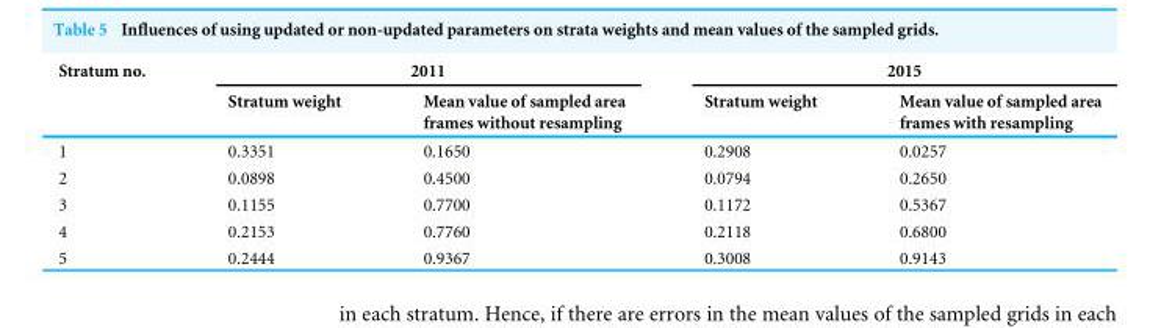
<table><thead><tr><td rowspan="2">Stratum no.</td><td colspan="2">2011</td><td colspan="2">2015</td></tr><tr><td>Stratum weight</td><td>Mean value of sampled area frames without resampling</td><td>Stratum weight</td><td>Mean value of sampled area frames with resampling</td></tr></thead><tbody><tr><td>1</td><td>0.3351</td><td>0.1650</td><td>0.2908</td><td>0.0257</td></tr><tr><td>2</td><td>0.0898</td><td>0.4500</td><td>0.0794</td><td>0.2650</td></tr><tr><td>3</td><td>0.1155</td><td>0.7700</td><td>0.1172</td><td>0.5367</td></tr><tr><td>4</td><td>0.2153</td><td>0.7760</td><td>0.2118</td><td>0.6800</td></tr><tr><td>5</td><td>0.2444</td><td>0.9367</td><td>0.3008</td><td>0.9143</td></tr></tbody></table>